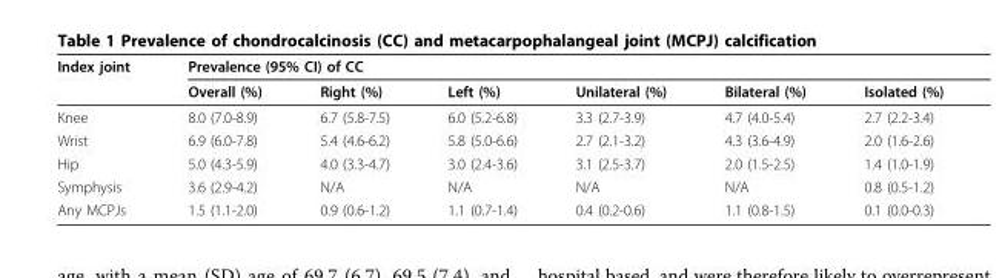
<table><thead><tr><td rowspan="2">Index joint</td><td colspan="6">Prevalence (95% CI) of CC</td></tr><tr><td>Overall (%)</td><td>Right (%)</td><td>Left (%)</td><td>Unilateral (%)</td><td>Bilateral (%)</td><td>Isolated (%)</td></tr></thead><tbody><tr><td>Knee</td><td>8.0 (7.0-8.9)</td><td>6.7 (5.8-7.5)</td><td>6.0 (5.2-6.8)</td><td>3.3 (2.7-3.9)</td><td>4.7 (4.0-5.4)</td><td>2.7 (2.2-3.4)</td></tr><tr><td>Wrist</td><td>6.9 (6.0-7.8)</td><td>5.4 (4.6-6.2)</td><td>5.8 (5.0-6.6)</td><td>2.7 (2.1-3.2)</td><td>4.3 (3.6-4.9)</td><td>2.0 (1.6-2.6)</td></tr><tr><td>Hip</td><td>5.0 (4.3-5.9)</td><td>4.0 (3.3-4.7)</td><td>3.0 (2.4-3.6)</td><td>3.1 (2.5-3.7)</td><td>2.0 (1.5-2.5)</td><td>1.4 (1.0-1.9)</td></tr><tr><td>Symphysis</td><td>3.6 (2.9-4.2)</td><td>N/A</td><td>N/A</td><td>N/A</td><td>N/A</td><td>0.8 (0.5-1.2)</td></tr><tr><td>Any MCPJs</td><td>1.5 (1.1-2.0)</td><td>0.9 (0.6-1.2)</td><td>1.1 (0.7-1.4)</td><td>0.4 (0.2-0.6)</td><td>1.1 (0.8-1.5)</td><td>0.1 (0.0-0.3)</td></tr></tbody></table>